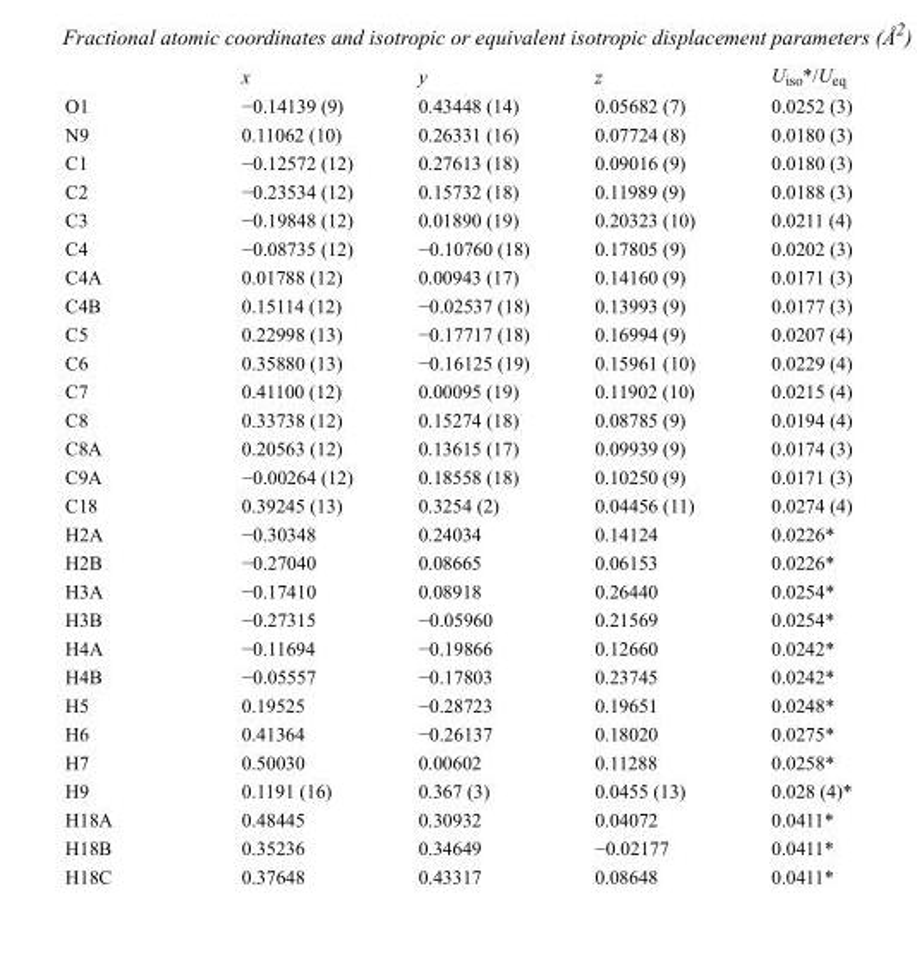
<table><thead><tr><td></td><td>x</td><td>y</td><td>z</td><td>U<sub>iso</sub>*/U<sub>eq</sub></td></tr></thead><tbody><tr><td>O1</td><td>−0.14139 (9)</td><td>0.43448 (14)</td><td>0.05682 (7)</td><td>0.0252 (3)</td></tr><tr><td>N9</td><td>0.11062 (10)</td><td>0.26331 (16)</td><td>0.07724 (8)</td><td>0.0180 (3)</td></tr><tr><td>C1</td><td>−0.12572 (12)</td><td>0.27613 (18)</td><td>0.09016 (9)</td><td>0.0180 (3)</td></tr><tr><td>C2</td><td>−0.23534 (12)</td><td>0.15732 (18)</td><td>0.11989 (9)</td><td>0.0188 (3)</td></tr><tr><td>C3</td><td>−0.19848 (12)</td><td>0.01890 (19)</td><td>0.20323 (10)</td><td>0.0211 (4)</td></tr><tr><td>C4</td><td>−0.08735 (12)</td><td>−0.10760 (18)</td><td>0.17805 (9)</td><td>0.0202 (3)</td></tr><tr><td>C4A</td><td>0.01788 (12)</td><td>0.00943 (17)</td><td>0.14160 (9)</td><td>0.0171 (3)</td></tr><tr><td>C4B</td><td>0.15114 (12)</td><td>−0.02537 (18)</td><td>0.13993 (9)</td><td>0.0177 (3)</td></tr><tr><td>C5</td><td>0.22998 (13)</td><td>−0.17717 (18)</td><td>0.16994 (9)</td><td>0.0207 (4)</td></tr><tr><td>C6</td><td>0.35880 (13)</td><td>−0.16125 (19)</td><td>0.15961 (10)</td><td>0.0229 (4)</td></tr><tr><td>C7</td><td>0.41100 (12)</td><td>0.00095 (19)</td><td>0.11902 (10)</td><td>0.0215 (4)</td></tr><tr><td>C8</td><td>0.33738 (12)</td><td>0.15274 (18)</td><td>0.08785 (9)</td><td>0.0194 (4)</td></tr><tr><td>C8A</td><td>0.20563 (12)</td><td>0.13615 (17)</td><td>0.09939 (9)</td><td>0.0174 (3)</td></tr><tr><td>C9A</td><td>−0.00264 (12)</td><td>0.18558 (18)</td><td>0.10250 (9)</td><td>0.0171 (3)</td></tr><tr><td>C18</td><td>0.39245 (13)</td><td>0.3254 (2)</td><td>0.04456 (11)</td><td>0.0274 (4)</td></tr><tr><td>H2A</td><td>−0.30348</td><td>0.24034</td><td>0.14124</td><td>0.0226*</td></tr><tr><td>H2B</td><td>−0.27040</td><td>0.08665</td><td>0.06153</td><td>0.0226*</td></tr><tr><td>H3A</td><td>−0.17410</td><td>0.08918</td><td>0.26440</td><td>0.0254*</td></tr><tr><td>H3B</td><td>−0.27315</td><td>−0.05960</td><td>0.21569</td><td>0.0254*</td></tr><tr><td>H4A</td><td>−0.11694</td><td>−0.19866</td><td>0.12660</td><td>0.0242*</td></tr><tr><td>H4B</td><td>−0.05557</td><td>−0.17803</td><td>0.23745</td><td>0.0242*</td></tr><tr><td>H5</td><td>0.19525</td><td>−0.28723</td><td>0.19651</td><td>0.0248*</td></tr><tr><td>H6</td><td>0.41364</td><td>−0.26137</td><td>0.18020</td><td>0.0275*</td></tr><tr><td>H7</td><td>0.50030</td><td>0.00602</td><td>0.11288</td><td>0.0258*</td></tr><tr><td>H9</td><td>0.1191 (16)</td><td>0.367 (3)</td><td>0.0455 (13)</td><td>0.028 (4)*</td></tr><tr><td>H18A</td><td>0.48445</td><td>0.30932</td><td>0.04072</td><td>0.0411*</td></tr><tr><td>H18B</td><td>0.35236</td><td>0.34649</td><td>−0.02177</td><td>0.0411*</td></tr><tr><td>H18C</td><td>0.37648</td><td>0.43317</td><td>0.08648</td><td>0.0411*</td></tr></tbody></table>